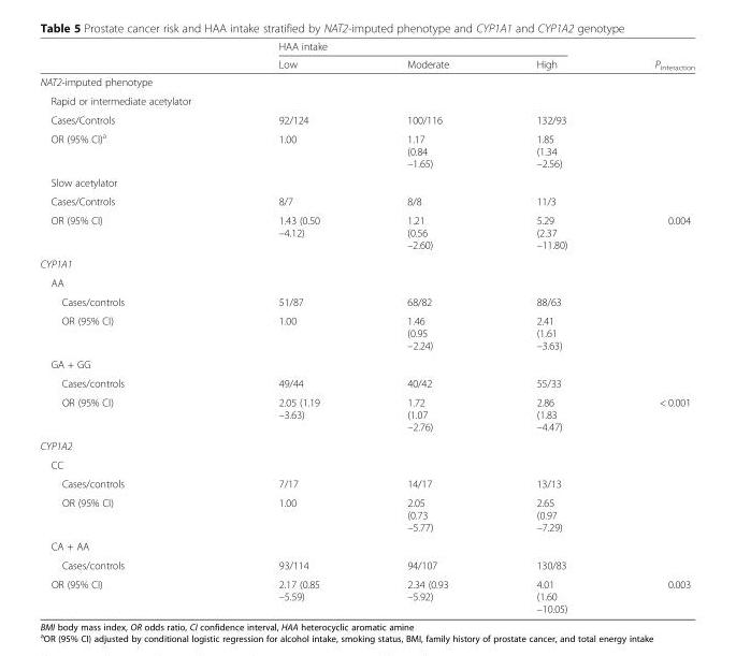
<table><thead><tr><td rowspan="2"></td><td colspan="3">HAA intake</td><td rowspan="2">P<sub>interaction</sub></td></tr><tr><td>Low</td><td>Moderate</td><td>High</td></tr></thead><tbody><tr><td colspan="5">NAT2-imputed phenotype</td></tr><tr><td colspan="5">Rapid or intermediate acetylator</td></tr><tr><td>Cases/Controls</td><td>92/124</td><td>100/116</td><td>132/93</td><td></td></tr><tr><td>OR (95% CI)<sup>a</sup></td><td>1.00</td><td>1.17 (0.84 –1.65)</td><td>1.85 (1.34 –2.56)</td><td></td></tr><tr><td colspan="5">Slow acetylator</td></tr><tr><td>Cases/Controls</td><td>8/7</td><td>8/8</td><td>11/3</td><td></td></tr><tr><td>OR (95% CI)</td><td>1.43 (0.50 –4.12)</td><td>1.21 (0.56 –2.60)</td><td>5.29 (2.37 –11.80)</td><td>0.004</td></tr><tr><td colspan="5">CYP1A1</td></tr><tr><td colspan="5">AA</td></tr><tr><td>Cases/controls</td><td>51/87</td><td>68/82</td><td>88/63</td><td></td></tr><tr><td>OR (95% CI)</td><td>1.00</td><td>1.46 (0.95 –2.24)</td><td>2.41 (1.61 –3.63)</td><td></td></tr><tr><td colspan="5">GA + GG</td></tr><tr><td>Cases/controls</td><td>49/44</td><td>40/42</td><td>55/33</td><td></td></tr><tr><td>OR (95% CI)</td><td>2.05 (1.19 –3.63)</td><td>1.72 (1.07 –2.76)</td><td>2.86 (1.83 –4.47)</td><td>&lt; 0.001</td></tr><tr><td colspan="5">CYP1A2</td></tr><tr><td colspan="5">CC</td></tr><tr><td>Cases/controls</td><td>7/17</td><td>14/17</td><td>13/13</td><td></td></tr><tr><td>OR (95% CI)</td><td>1.00</td><td>2.05 (0.73 –5.77)</td><td>2.65 (0.97 –7.29)</td><td></td></tr><tr><td colspan="5">CA + AA</td></tr><tr><td>Cases/controls</td><td>93/114</td><td>94/107</td><td>130/83</td><td></td></tr><tr><td>OR (95% CI)</td><td>2.17 (0.85 –5.59)</td><td>2.34 (0.93 –5.92)</td><td>4.01 (1.60 –10.05)</td><td>0.003</td></tr></tbody></table>